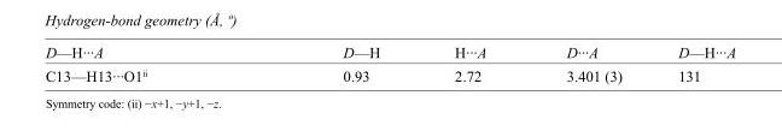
<table><tbody><tr><td>D—H···A</td><td>D—H</td><td>H···A</td><td>D···A</td><td>D—H···A</td></tr><tr><td>C13—H13···O1<sup>ii</sup></td><td>0.93</td><td>2.72</td><td>3.401 (3)</td><td>131</td></tr></tbody></table>